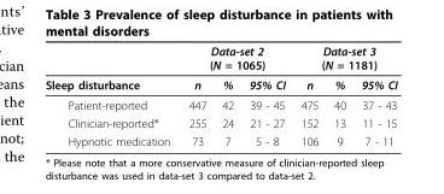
<table><thead><tr><td rowspan="2">Sleep disturbance</td><td colspan="3">Data-set 2 (N = 1065)</td><td colspan="3">Data-set 3 (N = 1181)</td></tr><tr><td>n</td><td>%</td><td>95% CI</td><td>n</td><td>%</td><td>95% CI</td></tr></thead><tbody><tr><td>Patient-reported</td><td>447</td><td>42</td><td>39 - 45</td><td>475</td><td>40</td><td>37 - 43</td></tr><tr><td>Clinician-reported*</td><td>255</td><td>24</td><td>21 - 27</td><td>152</td><td>13</td><td>11 - 15</td></tr><tr><td>Hypnotic medication</td><td>73</td><td>7</td><td>5 - 8</td><td>106</td><td>9</td><td>7 - 11</td></tr></tbody></table>